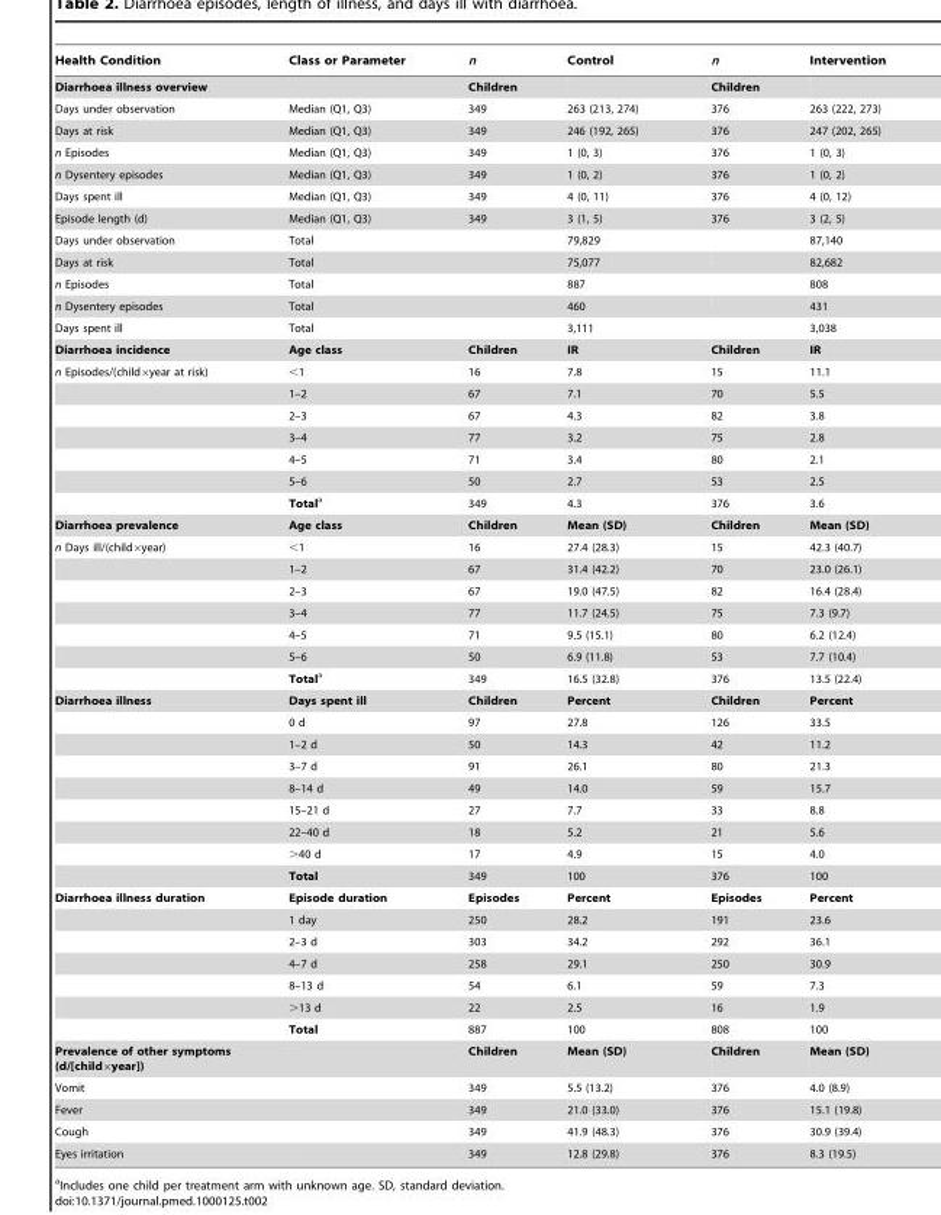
<table><thead><tr><td>Health Condition</td><td>Class or Parameter</td><td>n</td><td>Control</td><td>n</td><td>Intervention</td></tr></thead><tbody><tr><td>Diarrhoea illness overview</td><td></td><td>Children</td><td></td><td>Children</td><td></td></tr><tr><td>Days under observation</td><td>Median (Q1, Q3)</td><td>349</td><td>263 (213, 274)</td><td>376</td><td>263 (222, 273)</td></tr><tr><td>Days at risk</td><td>Median (Q1, Q3)</td><td>349</td><td>246 (192, 265)</td><td>376</td><td>247 (202, 265)</td></tr><tr><td>n Episodes</td><td>Median (Q1, Q3)</td><td>349</td><td>1 (0, 3)</td><td>376</td><td>1 (0, 3)</td></tr><tr><td>n Dysentery episodes</td><td>Median (Q1, Q3)</td><td>349</td><td>1 (0, 2)</td><td>376</td><td>1 (0, 2)</td></tr><tr><td>Days spent ill</td><td>Median (Q1, Q3)</td><td>349</td><td>4 (0, 11)</td><td>376</td><td>4 (0, 12)</td></tr><tr><td>Episode length (d)</td><td>Median (Q1, Q3)</td><td>349</td><td>3 (1, 5)</td><td>376</td><td>3 (2, 5)</td></tr><tr><td>Days under observation</td><td>Total</td><td></td><td>79,829</td><td></td><td>87,140</td></tr><tr><td>Days at risk</td><td>Total</td><td></td><td>75,077</td><td></td><td>82,682</td></tr><tr><td>n Episodes</td><td>Total</td><td></td><td>887</td><td></td><td>808</td></tr><tr><td>n Dysentery episodes</td><td>Total</td><td></td><td>460</td><td></td><td>431</td></tr><tr><td>Days spent ill</td><td>Total</td><td></td><td>3,111</td><td></td><td>3,038</td></tr><tr><td>Diarrhoea incidence</td><td>Age class</td><td>Children</td><td>IR</td><td>Children</td><td>IR</td></tr><tr><td rowspan="7">n Episodes/(child×year at risk)</td><td>&lt;1</td><td>16</td><td>7.8</td><td>15</td><td>11.1</td></tr><tr><td>1–2</td><td>67</td><td>7.1</td><td>70</td><td>5.5</td></tr><tr><td>2–3</td><td>67</td><td>4.3</td><td>82</td><td>3.8</td></tr><tr><td>3–4</td><td>77</td><td>3.2</td><td>75</td><td>2.8</td></tr><tr><td>4–5</td><td>71</td><td>3.4</td><td>80</td><td>2.1</td></tr><tr><td>5–6</td><td>50</td><td>2.7</td><td>53</td><td>2.5</td></tr><tr><td>Totala</td><td>349</td><td>4.3</td><td>376</td><td>3.6</td></tr><tr><td>Diarrhoea prevalence</td><td>Age class</td><td>Children</td><td>Mean (SD)</td><td>Children</td><td>Mean (SD)</td></tr><tr><td rowspan="7">n Days ill/(child×year)</td><td>&lt;1</td><td>16</td><td>27.4 (28.3)</td><td>15</td><td>42.3 (40.7)</td></tr><tr><td>1–2</td><td>67</td><td>31.4 (42.2)</td><td>70</td><td>23.0 (26.1)</td></tr><tr><td>2–3</td><td>67</td><td>19.0 (47.5)</td><td>82</td><td>16.4 (28.4)</td></tr><tr><td>3–4</td><td>77</td><td>11.7 (24.5)</td><td>75</td><td>7.3 (9.7)</td></tr><tr><td>4–5</td><td>71</td><td>9.5 (15.1)</td><td>80</td><td>6.2 (12.4)</td></tr><tr><td>5–6</td><td>50</td><td>6.9 (11.8)</td><td>53</td><td>7.7 (10.4)</td></tr><tr><td>Totala</td><td>349</td><td>16.5 (32.8)</td><td>376</td><td>13.5 (22.4)</td></tr><tr><td rowspan="9">Diarrhoea illness</td><td>Days spent ill</td><td>Children</td><td>Percent</td><td>Children</td><td>Percent</td></tr><tr><td>0 d</td><td>97</td><td>27.8</td><td>126</td><td>33.5</td></tr><tr><td>1–2 d</td><td>50</td><td>14.3</td><td>42</td><td>11.2</td></tr><tr><td>3–7 d</td><td>91</td><td>26.1</td><td>80</td><td>21.3</td></tr><tr><td>8–14 d</td><td>49</td><td>14.0</td><td>59</td><td>15.7</td></tr><tr><td>15–21 d</td><td>27</td><td>7.7</td><td>33</td><td>8.8</td></tr><tr><td>22–40 d</td><td>18</td><td>5.2</td><td>21</td><td>5.6</td></tr><tr><td>&gt;40 d</td><td>17</td><td>4.9</td><td>15</td><td>4.0</td></tr><tr><td>Total</td><td>349</td><td>100</td><td>376</td><td>100</td></tr><tr><td rowspan="7">Diarrhoea illness duration</td><td>Episode duration</td><td>Episodes</td><td>Percent</td><td>Episodes</td><td>Percent</td></tr><tr><td>1 day</td><td>250</td><td>28.2</td><td>191</td><td>23.6</td></tr><tr><td>2–3 d</td><td>303</td><td>34.2</td><td>292</td><td>36.1</td></tr><tr><td>4–7 d</td><td>258</td><td>29.1</td><td>250</td><td>30.9</td></tr><tr><td>8–13 d</td><td>54</td><td>6.1</td><td>59</td><td>7.3</td></tr><tr><td>&gt;13 d</td><td>22</td><td>2.5</td><td>16</td><td>1.9</td></tr><tr><td>Total</td><td>887</td><td>100</td><td>808</td><td>100</td></tr><tr><td>Prevalence of other symptoms (d/[child×year])</td><td></td><td>Children</td><td>Mean (SD)</td><td>Children</td><td>Mean (SD)</td></tr><tr><td>Vomit</td><td></td><td>349</td><td>5.5 (13.2)</td><td>376</td><td>4.0 (8.9)</td></tr><tr><td>Fever</td><td></td><td>349</td><td>21.0 (33.0)</td><td>376</td><td>15.1 (19.8)</td></tr><tr><td>Cough</td><td></td><td>349</td><td>41.9 (48.3)</td><td>376</td><td>30.9 (39.4)</td></tr><tr><td>Eyes irritation</td><td></td><td>349</td><td>12.8 (29.8)</td><td>376</td><td>8.3 (19.5)</td></tr></tbody></table>